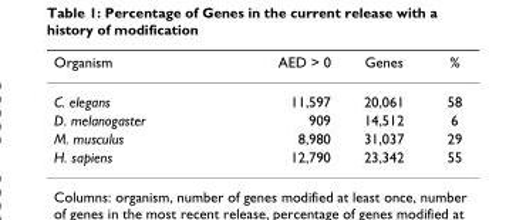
<table><thead><tr><td>Organism</td><td>AED &gt; 0</td><td>Genes</td><td>%</td></tr></thead><tbody><tr><td>C. elegans</td><td>11,597</td><td>20,061</td><td>58</td></tr><tr><td>D. melanogaster</td><td>909</td><td>14,512</td><td>6</td></tr><tr><td>M. musculus</td><td>8,980</td><td>31,037</td><td>29</td></tr><tr><td>H. sapiens</td><td>12,790</td><td>23,342</td><td>55</td></tr></tbody></table>